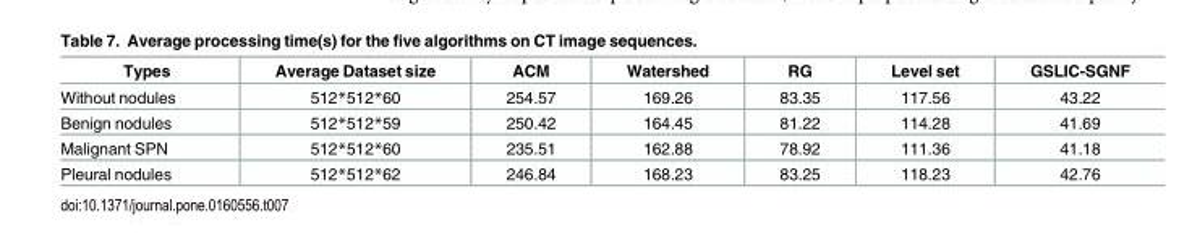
<table><thead><tr><td>Types</td><td>Average Dataset size</td><td>ACM</td><td>Watershed</td><td>RG</td><td>Level set</td><td>GSLIC-SGNF</td></tr></thead><tbody><tr><td>Without nodules</td><td>512*512*60</td><td>254.57</td><td>169.26</td><td>83.35</td><td>117.56</td><td>43.22</td></tr><tr><td>Benign nodules</td><td>512*512*59</td><td>250.42</td><td>164.45</td><td>81.22</td><td>114.28</td><td>41.69</td></tr><tr><td>Malignant SPN</td><td>512*512*60</td><td>235.51</td><td>162.88</td><td>78.92</td><td>111.36</td><td>41.18</td></tr><tr><td>Pleural nodules</td><td>512*512*62</td><td>246.84</td><td>168.23</td><td>83.25</td><td>118.23</td><td>42.76</td></tr></tbody></table>